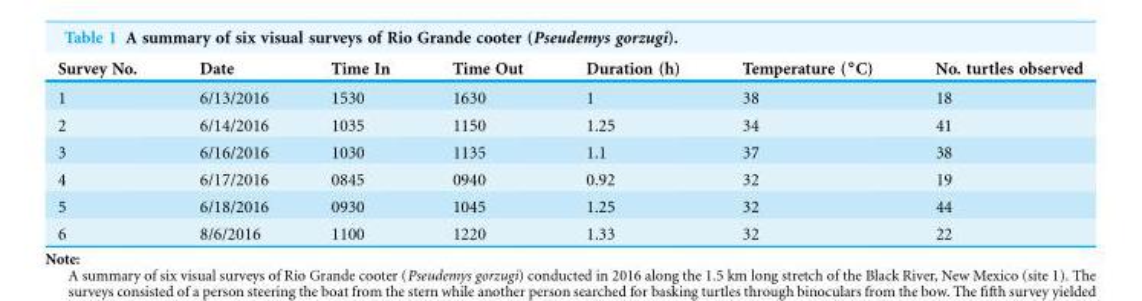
<table><thead><tr><td>Survey No.</td><td>Date</td><td>Time In</td><td>Time Out</td><td>Duration (h)</td><td>Temperature (°C)</td><td>No. turtles observed</td></tr></thead><tbody><tr><td>1</td><td>6/13/2016</td><td>1530</td><td>1630</td><td>1</td><td>38</td><td>18</td></tr><tr><td>2</td><td>6/14/2016</td><td>1035</td><td>1150</td><td>1.25</td><td>34</td><td>41</td></tr><tr><td>3</td><td>6/16/2016</td><td>1030</td><td>1135</td><td>1.1</td><td>37</td><td>38</td></tr><tr><td>4</td><td>6/17/2016</td><td>0845</td><td>0940</td><td>0.92</td><td>32</td><td>19</td></tr><tr><td>5</td><td>6/18/2016</td><td>0930</td><td>1045</td><td>1.25</td><td>32</td><td>44</td></tr><tr><td>6</td><td>8/6/2016</td><td>1100</td><td>1220</td><td>1.33</td><td>32</td><td>22</td></tr></tbody></table>